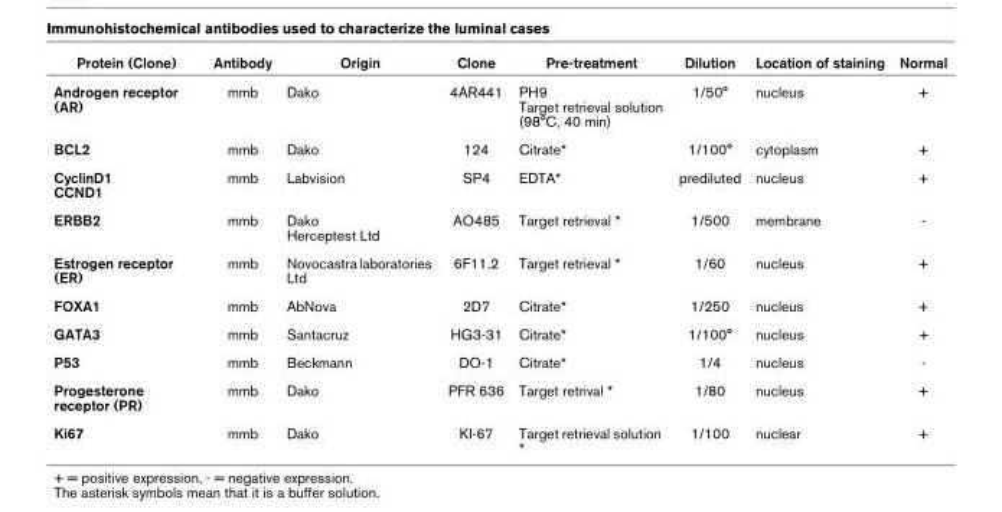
<table><thead><tr><td>Protein (Clone)</td><td>Antibody</td><td>Origin</td><td>Clone</td><td>Pre-treatment</td><td>Dilution</td><td>Location of staining</td><td>Normal</td></tr></thead><tbody><tr><td>Androgen receptor (AR)</td><td>mmb</td><td>Dako</td><td>4AR441</td><td>PH9 Target retrieval solution (98°C, 40 min)</td><td>1/50°</td><td>nucleus</td><td>+</td></tr><tr><td>BCL2</td><td>mmb</td><td>Dako</td><td>124</td><td>Citrate*</td><td>1/100°</td><td>cytoplasm</td><td>+</td></tr><tr><td>CyclinD1 CCND1</td><td>mmb</td><td>Labvision</td><td>SP4</td><td>EDTA*</td><td>prediluted</td><td>nucleus</td><td>+</td></tr><tr><td>ERBB2</td><td>mmb</td><td>Dako Herceptest Ltd</td><td>AO485</td><td>Target retrieval *</td><td>1/500</td><td>membrane</td><td>-</td></tr><tr><td>Estrogen receptor (ER)</td><td>mmb</td><td>Novocastra laboratories Ltd</td><td>6F11.2</td><td>Target retrieval *</td><td>1/60</td><td>nucleus</td><td>+</td></tr><tr><td>FOXA1</td><td>mmb</td><td>AbNova</td><td>2D7</td><td>Citrate*</td><td>1/250</td><td>nucleus</td><td>+</td></tr><tr><td>GATA3</td><td>mmb</td><td>Santacruz</td><td>HG3-31</td><td>Citrate*</td><td>1/100°</td><td>nucleus</td><td>+</td></tr><tr><td>P53</td><td>mmb</td><td>Beckmann</td><td>DO-1</td><td>Citrate*</td><td>1/4</td><td>nucleus</td><td>-</td></tr><tr><td>Progesterone receptor (PR)</td><td>mmb</td><td>Dako</td><td>PFR 636</td><td>Target retrival *</td><td>1/80</td><td>nucleus</td><td>+</td></tr><tr><td>Ki67</td><td>mmb</td><td>Dako</td><td>KI-67</td><td>Target retrieval solution *</td><td>1/100</td><td>nuclear</td><td>+</td></tr></tbody></table>